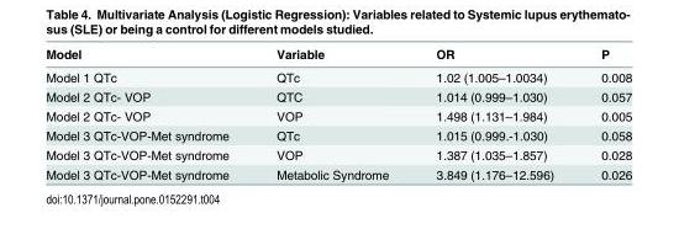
<table><thead><tr><td>Model</td><td>Variable</td><td>OR</td><td>P</td></tr></thead><tbody><tr><td>Model 1 QTc</td><td>QTc</td><td>1.02 (1.005–1.0034)</td><td>0.008</td></tr><tr><td>Model 2 QTc- VOP</td><td>QTC</td><td>1.014 (0.999–1.030)</td><td>0.057</td></tr><tr><td>Model 2 QTc- VOP</td><td>VOP</td><td>1.498 (1.131–1.984)</td><td>0.005</td></tr><tr><td>Model 3 QTc-VOP-Met syndrome</td><td>QTc</td><td>1.015 (0.999.-1.030)</td><td>0.058</td></tr><tr><td>Model 3 QTc-VOP-Met syndrome</td><td>VOP</td><td>1.387 (1.035–1.857)</td><td>0.028</td></tr><tr><td>Model 3 QTc-VOP-Met syndrome</td><td>Metabolic Syndrome</td><td>3.849 (1.176–12.596)</td><td>0.026</td></tr></tbody></table>